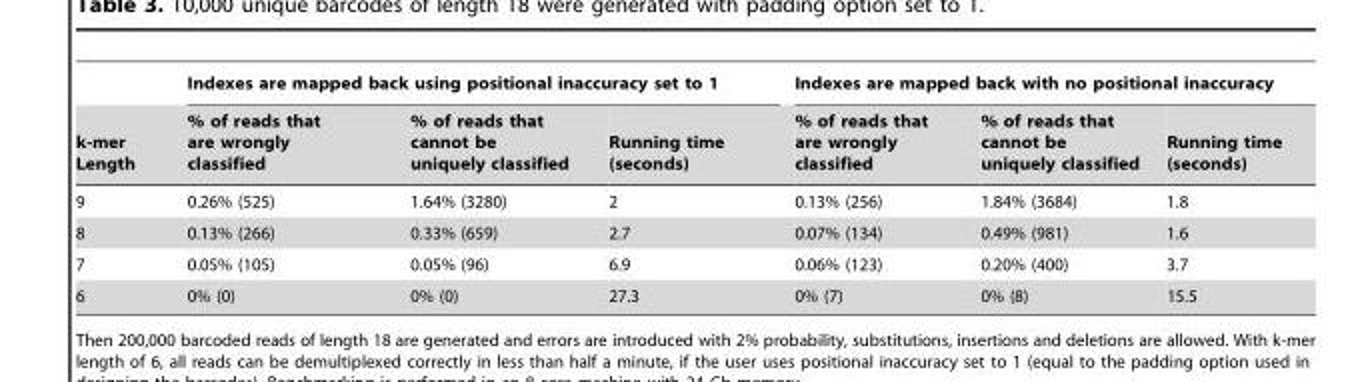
<table><thead><tr><td rowspan="2">k-mer Length</td><td colspan="3">Indexes are mapped back using positional inaccuracy set to 1</td><td colspan="3">Indexes are mapped back with no positional inaccuracy</td></tr><tr><td>% of reads that are wrongly classified</td><td>% of reads that cannot be uniquely classified</td><td>Running time (seconds)</td><td>% of reads that are wrongly classified</td><td>% of reads that cannot be uniquely classified</td><td>Running time (seconds)</td></tr></thead><tbody><tr><td>9</td><td>0.26% (525)</td><td>1.64% (3280)</td><td>2</td><td>0.13% (256)</td><td>1.84% (3684)</td><td>1.8</td></tr><tr><td>8</td><td>0.13% (266)</td><td>0.33% (659)</td><td>2.7</td><td>0.07% (134)</td><td>0.49% (981)</td><td>1.6</td></tr><tr><td>7</td><td>0.05% (105)</td><td>0.05% (96)</td><td>6.9</td><td>0.06% (123)</td><td>0.20% (400)</td><td>3.7</td></tr><tr><td>6</td><td>0% (0)</td><td>0% (0)</td><td>27.3</td><td>0% (7)</td><td>0% (8)</td><td>15.5</td></tr></tbody></table>